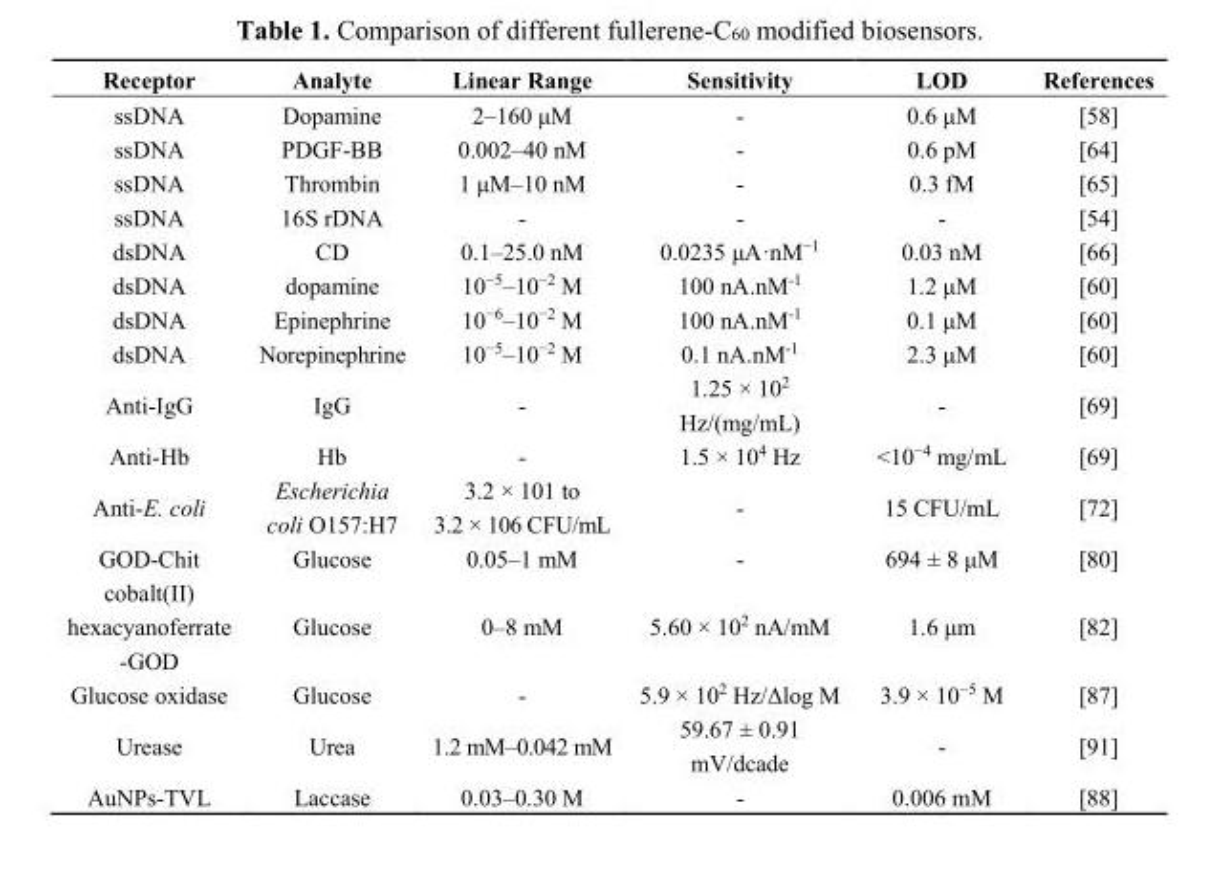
<table><thead><tr><td>Receptor</td><td>Analyte</td><td>Linear Range</td><td>Sensitivity</td><td>LOD</td><td>References</td></tr></thead><tbody><tr><td>ssDNA</td><td>Dopamine</td><td>2–160 μM</td><td>-</td><td>0.6 μM</td><td>[58]</td></tr><tr><td>ssDNA</td><td>PDGF-BB</td><td>0.002–40 nM</td><td>-</td><td>0.6 pM</td><td>[64]</td></tr><tr><td>ssDNA</td><td>Thrombin</td><td>1 μM–10 nM</td><td>-</td><td>0.3 fM</td><td>[65]</td></tr><tr><td>ssDNA</td><td>16S rDNA</td><td>-</td><td>-</td><td>-</td><td>[54]</td></tr><tr><td>dsDNA</td><td>CD</td><td>0.1–25.0 nM</td><td>0.0235 μA·nM<sup>−1</sup></td><td>0.03 nM</td><td>[66]</td></tr><tr><td>dsDNA</td><td>dopamine</td><td>10<sup>−5</sup>–10<sup>−2</sup> M</td><td>100 nA.nM<sup>-1</sup></td><td>1.2 μM</td><td>[60]</td></tr><tr><td>dsDNA</td><td>Epinephrine</td><td>10<sup>−6</sup>–10<sup>−2</sup> M</td><td>100 nA.nM<sup>-1</sup></td><td>0.1 μM</td><td>[60]</td></tr><tr><td>dsDNA</td><td>Norepinephrine</td><td>10<sup>−5</sup>–10<sup>−2</sup> M</td><td>0.1 nA.nM<sup>-1</sup></td><td>2.3 μM</td><td>[60]</td></tr><tr><td>Anti-IgG</td><td>IgG</td><td>-</td><td>1.25 × 10<sup>2</sup> Hz/(mg/mL)</td><td>-</td><td>[69]</td></tr><tr><td>Anti-Hb</td><td>Hb</td><td>-</td><td>1.5 × 10<sup>4</sup> Hz</td><td>&lt;10<sup>−4</sup> mg/mL</td><td>[69]</td></tr><tr><td>Anti-E. coli</td><td>Escherichia coli O157:H7</td><td>3.2 × 101 to 3.2 × 106 CFU/mL</td><td>-</td><td>15 CFU/mL</td><td>[72]</td></tr><tr><td>GOD-Chit</td><td>Glucose</td><td>0.05–1 mM</td><td>-</td><td>694 ± 8 μM</td><td>[80]</td></tr><tr><td>cobalt(II) hexacyanoferrate -GOD</td><td>Glucose</td><td>0–8 mM</td><td>5.60 × 10<sup>2</sup> nA/mM</td><td>1.6 μm</td><td>[82]</td></tr><tr><td>Glucose oxidase</td><td>Glucose</td><td>-</td><td>5.9 × 10<sup>2</sup> Hz/Δlog M</td><td>3.9 × 10<sup>−5</sup> M</td><td>[87]</td></tr><tr><td>Urease</td><td>Urea</td><td>1.2 mM–0.042 mM</td><td>59.67 ± 0.91 mV/dcade</td><td>-</td><td>[91]</td></tr><tr><td>AuNPs-TVL</td><td>Laccase</td><td>0.03–0.30 M</td><td>-</td><td>0.006 mM</td><td>[88]</td></tr></tbody></table>